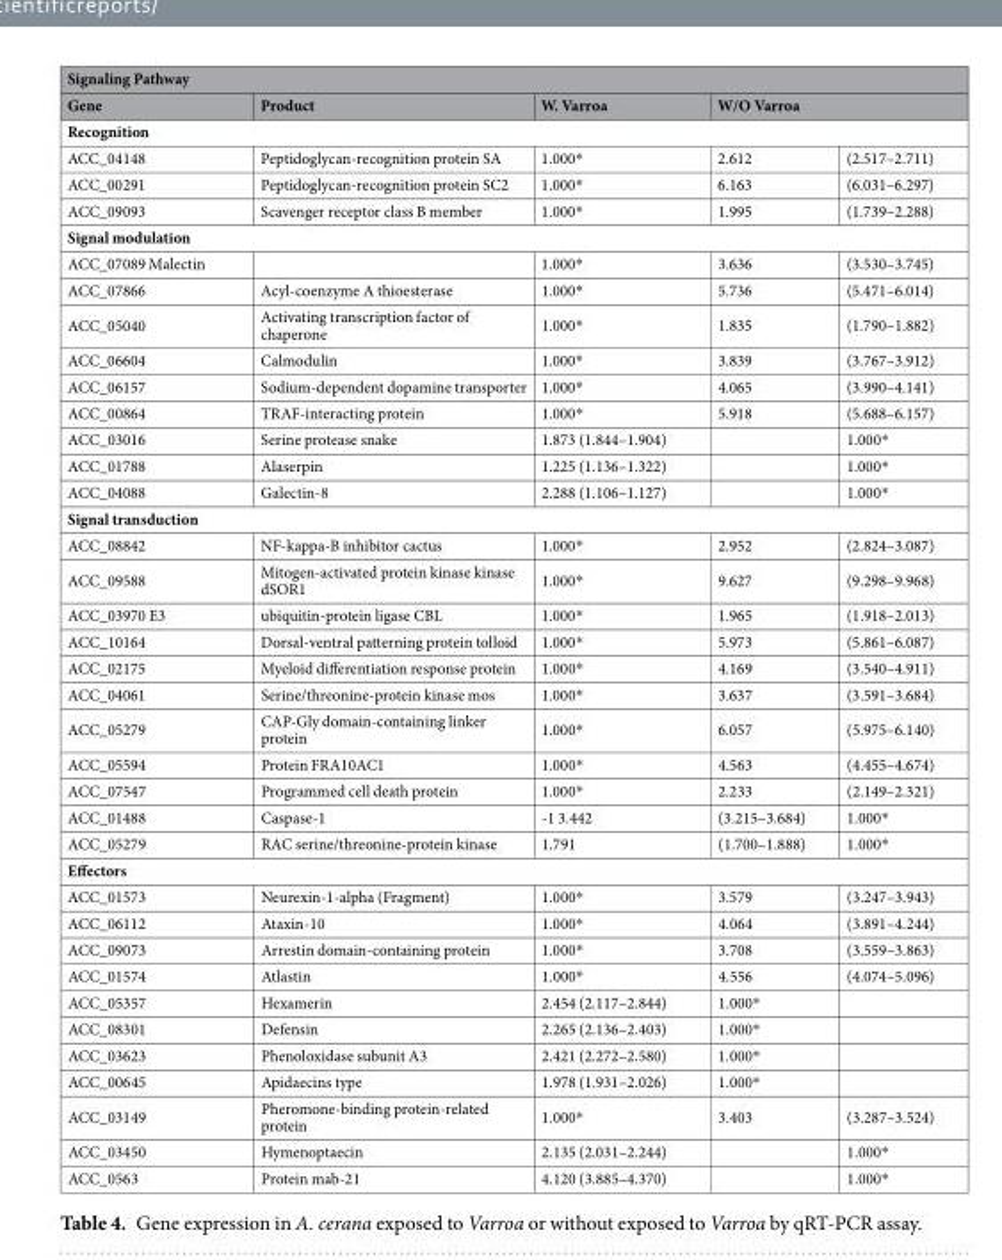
<table><thead><tr><td colspan="5">Signaling Pathway</td></tr><tr><td>Gene</td><td>Product</td><td>W. Varroa</td><td colspan="2">W/O Varroa</td></tr><tr><td colspan="5">Recognition</td></tr><tr><td>ACC_04148</td><td>Peptidoglycan-recognition protein SA</td><td>1.000*</td><td>2.612</td><td>(2.517–2.711)</td></tr></thead><tbody><tr><td>ACC_00291</td><td>Peptidoglycan-recognition protein SC2</td><td>1.000*</td><td>6.163</td><td>(6.031–6.297)</td></tr><tr><td>ACC_09093</td><td>Scavenger receptor class B member</td><td>1.000*</td><td>1.995</td><td>(1.739–2.288)</td></tr><tr><td colspan="5">Signal modulation</td></tr><tr><td>ACC_07089 Malectin</td><td></td><td>1.000*</td><td>3.636</td><td>(3.530–3.745)</td></tr><tr><td>ACC_07866</td><td>Acyl-coenzyme A thioesterase</td><td>1.000*</td><td>5.736</td><td>(5.471–6.014)</td></tr><tr><td>ACC_05040</td><td>Activating transcription factor of chaperone</td><td>1.000*</td><td>1.835</td><td>(1.790–1.882)</td></tr><tr><td>ACC_06604</td><td>Calmodulin</td><td>1.000*</td><td>3.839</td><td>(3.767–3.912)</td></tr><tr><td>ACC_06157</td><td>Sodium-dependent dopamine transporter</td><td>1.000*</td><td>4.065</td><td>(3.990–4.141)</td></tr><tr><td>ACC_00864</td><td>TRAF-interacting protein</td><td>1.000*</td><td>5.918</td><td>(5.688–6.157)</td></tr><tr><td>ACC_03016</td><td>Serine protease snake</td><td>1.873 (1.844–1.904)</td><td></td><td>1.000*</td></tr><tr><td>ACC_01788</td><td>Alaserpin</td><td>1.225 (1.136–1.322)</td><td></td><td>1.000*</td></tr><tr><td>ACC_04088</td><td>Galectin-8</td><td>2.288 (1.106–1.127)</td><td></td><td>1.000*</td></tr><tr><td colspan="5">Signal transduction</td></tr><tr><td>ACC_08842</td><td>NF-kappa-B inhibitor cactus</td><td>1.000*</td><td>2.952</td><td>(2.824–3.087)</td></tr><tr><td>ACC_09588</td><td>Mitogen-activated protein kinase kinase dSOR1</td><td>1.000*</td><td>9.627</td><td>(9.298–9.968)</td></tr><tr><td>ACC_03970 E3</td><td>ubiquitin-protein ligase CBL</td><td>1.000*</td><td>1.965</td><td>(1.918–2.013)</td></tr><tr><td>ACC_10164</td><td>Dorsal-ventral patterning protein tolloid</td><td>1.000*</td><td>5.973</td><td>(5.861–6.087)</td></tr><tr><td>ACC_02175</td><td>Myeloid differentiation response protein</td><td>1.000*</td><td>4.169</td><td>(3.540–4.911)</td></tr><tr><td>ACC_04061</td><td>Serine/threonine-protein kinase mos</td><td>1.000*</td><td>3.637</td><td>(3.591–3.684)</td></tr><tr><td>ACC_05279</td><td>CAP-Gly domain-containing linker protein</td><td>1.000*</td><td>6.057</td><td>(5.975–6.140)</td></tr><tr><td>ACC_05594</td><td>Protein FRA10AC1</td><td>1.000*</td><td>4.563</td><td>(4.455–4.674)</td></tr><tr><td>ACC_07547</td><td>Programmed cell death protein</td><td>1.000*</td><td>2.233</td><td>(2.149–2.321)</td></tr><tr><td>ACC_01488</td><td>Caspase-1</td><td>-1 3.442</td><td>(3.215–3.684)</td><td>1.000*</td></tr><tr><td>ACC_05279</td><td>RAC serine/threonine-protein kinase</td><td>1.791</td><td>(1.700–1.888)</td><td>1.000*</td></tr><tr><td colspan="5">Effectors</td></tr><tr><td>ACC_01573</td><td>Neurexin-1-alpha (Fragment)</td><td>1.000*</td><td>3.579</td><td>(3.247–3.943)</td></tr><tr><td>ACC_06112</td><td>Ataxin-10</td><td>1.000*</td><td>4.064</td><td>(3.891–4.244)</td></tr><tr><td>ACC_09073</td><td>Arrestin domain-containing protein</td><td>1.000*</td><td>3.708</td><td>(3.559–3.863)</td></tr><tr><td>ACC_01574</td><td>Atlastin</td><td>1.000*</td><td>4.556</td><td>(4.074–5.096)</td></tr><tr><td>ACC_05357</td><td>Hexamerin</td><td>2.454 (2.117–2.844)</td><td>1.000*</td><td></td></tr><tr><td>ACC_08301</td><td>Defensin</td><td>2.265 (2.136–2.403)</td><td>1.000*</td><td></td></tr><tr><td>ACC_03623</td><td>Phenoloxidase subunit A3</td><td>2.421 (2.272–2.580)</td><td>1.000*</td><td></td></tr><tr><td>ACC_00645</td><td>Apidaecins type</td><td>1.978 (1.931–2.026)</td><td>1.000*</td><td></td></tr><tr><td>ACC_03149</td><td>Pheromone-binding protein-related protein</td><td>1.000*</td><td>3.403</td><td>(3.287–3.524)</td></tr><tr><td>ACC_03450</td><td>Hymenoptaecin</td><td>2.135 (2.031–2.244)</td><td></td><td>1.000*</td></tr><tr><td>ACC_0563</td><td>Protein mab-21</td><td>4.120 (3.885–4.370)</td><td></td><td>1.000*</td></tr></tbody></table>